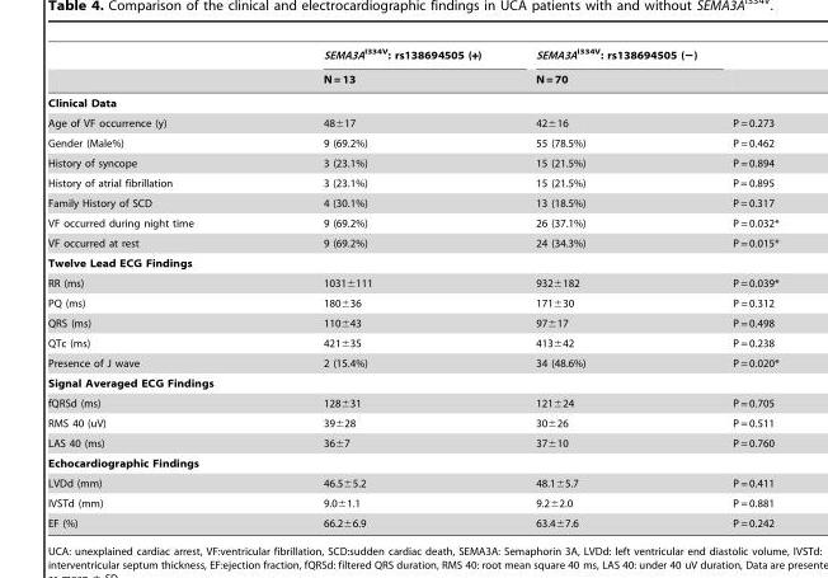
<table><thead><tr><td rowspan="2"></td><td rowspan="2">SEMA3A<sup>I334V</sup>: rs138694505 (+) N = 13</td><td rowspan="2">SEMA3A<sup>I334V</sup>: rs138694505 (−) N = 70</td><td rowspan="2"></td></tr><tr></tr></thead><tbody><tr><td colspan="4">Clinical Data</td></tr><tr><td>Age of VF occurrence (y)</td><td>48±17</td><td>42±16</td><td>P = 0.273</td></tr><tr><td>Gender (Male%)</td><td>9 (69.2%)</td><td>55 (78.5%)</td><td>P = 0.462</td></tr><tr><td>History of syncope</td><td>3 (23.1%)</td><td>15 (21.5%)</td><td>P = 0.894</td></tr><tr><td>History of atrial fibrillation</td><td>3 (23.1%)</td><td>15 (21.5%)</td><td>P = 0.895</td></tr><tr><td>Family History of SCD</td><td>4 (30.1%)</td><td>13 (18.5%)</td><td>P = 0.317</td></tr><tr><td>VF occurred during night time</td><td>9 (69.2%)</td><td>26 (37.1%)</td><td>P = 0.032*</td></tr><tr><td>VF occurred at rest</td><td>9 (69.2%)</td><td>24 (34.3%)</td><td>P = 0.015*</td></tr><tr><td colspan="4">Twelve Lead ECG Findings</td></tr><tr><td>RR (ms)</td><td>1031±111</td><td>932±182</td><td>P = 0.039*</td></tr><tr><td>PQ (ms)</td><td>180±36</td><td>171±30</td><td>P = 0.312</td></tr><tr><td>QRS (ms)</td><td>110±43</td><td>97±17</td><td>P = 0.498</td></tr><tr><td>QTc (ms)</td><td>421±35</td><td>413±42</td><td>P = 0.238</td></tr><tr><td>Presence of J wave</td><td>2 (15.4%)</td><td>34 (48.6%)</td><td>P = 0.020*</td></tr><tr><td colspan="4">Signal Averaged ECG Findings</td></tr><tr><td>fQRSd (ms)</td><td>128±31</td><td>121±24</td><td>P = 0.705</td></tr><tr><td>RMS 40 (uV)</td><td>39±28</td><td>30±26</td><td>P = 0.511</td></tr><tr><td>LAS 40 (ms)</td><td>36±7</td><td>37±10</td><td>P = 0.760</td></tr><tr><td colspan="4">Echocardiographic Findings</td></tr><tr><td>LVDd (mm)</td><td>46.5±5.2</td><td>48.1±5.7</td><td>P = 0.411</td></tr><tr><td>IVSTd (mm)</td><td>9.0±1.1</td><td>9.2±2.0</td><td>P = 0.881</td></tr><tr><td>EF (%)</td><td>66.2±6.9</td><td>63.4±7.6</td><td>P = 0.242</td></tr></tbody></table>